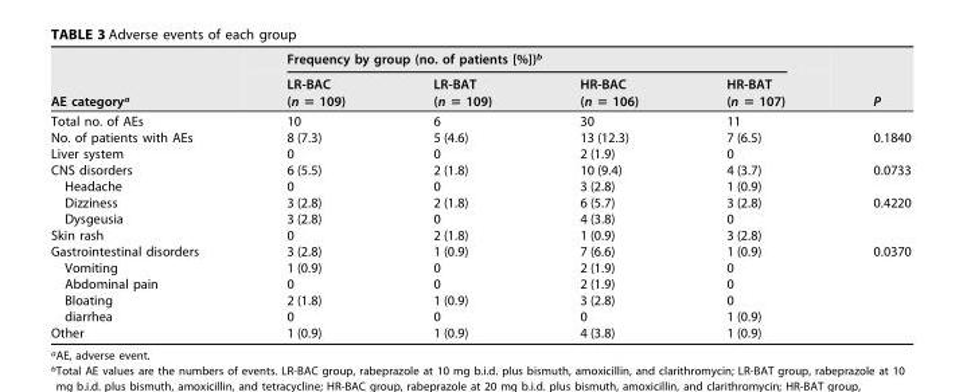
<table><thead><tr><td rowspan="2">AE category<sup>a</sup></td><td colspan="4">Frequency by group (no. of patients [%])<sup>b</sup></td><td rowspan="2">P</td></tr><tr><td>LR-BAC (n = 109)</td><td>LR-BAT (n = 109)</td><td>HR-BAC (n = 106)</td><td>HR-BAT (n = 107)</td></tr></thead><tbody><tr><td>Total no. of AEs</td><td>10</td><td>6</td><td>30</td><td>11</td><td></td></tr><tr><td>No. of patients with AEs</td><td>8 (7.3)</td><td>5 (4.6)</td><td>13 (12.3)</td><td>7 (6.5)</td><td>0.1840</td></tr><tr><td>Liver system</td><td>0</td><td>0</td><td>2 (1.9)</td><td>0</td><td></td></tr><tr><td>CNS disorders</td><td>6 (5.5)</td><td>2 (1.8)</td><td>10 (9.4)</td><td>4 (3.7)</td><td>0.0733</td></tr><tr><td>Headache</td><td>0</td><td>0</td><td>3 (2.8)</td><td>1 (0.9)</td><td></td></tr><tr><td>Dizziness</td><td>3 (2.8)</td><td>2 (1.8)</td><td>6 (5.7)</td><td>3 (2.8)</td><td>0.4220</td></tr><tr><td>Dysgeusia</td><td>3 (2.8)</td><td>0</td><td>4 (3.8)</td><td>0</td><td></td></tr><tr><td>Skin rash</td><td>0</td><td>2 (1.8)</td><td>1 (0.9)</td><td>3 (2.8)</td><td></td></tr><tr><td>Gastrointestinal disorders</td><td>3 (2.8)</td><td>1 (0.9)</td><td>7 (6.6)</td><td>1 (0.9)</td><td>0.0370</td></tr><tr><td>Vomiting</td><td>1 (0.9)</td><td>0</td><td>2 (1.9)</td><td>0</td><td></td></tr><tr><td>Abdominal pain</td><td>0</td><td>0</td><td>2 (1.9)</td><td>0</td><td></td></tr><tr><td>Bloating</td><td>2 (1.8)</td><td>1 (0.9)</td><td>3 (2.8)</td><td>0</td><td></td></tr><tr><td>diarrhea</td><td>0</td><td>0</td><td>0</td><td>1 (0.9)</td><td></td></tr><tr><td>Other</td><td>1 (0.9)</td><td>1 (0.9)</td><td>4 (3.8)</td><td>1 (0.9)</td><td></td></tr></tbody></table>